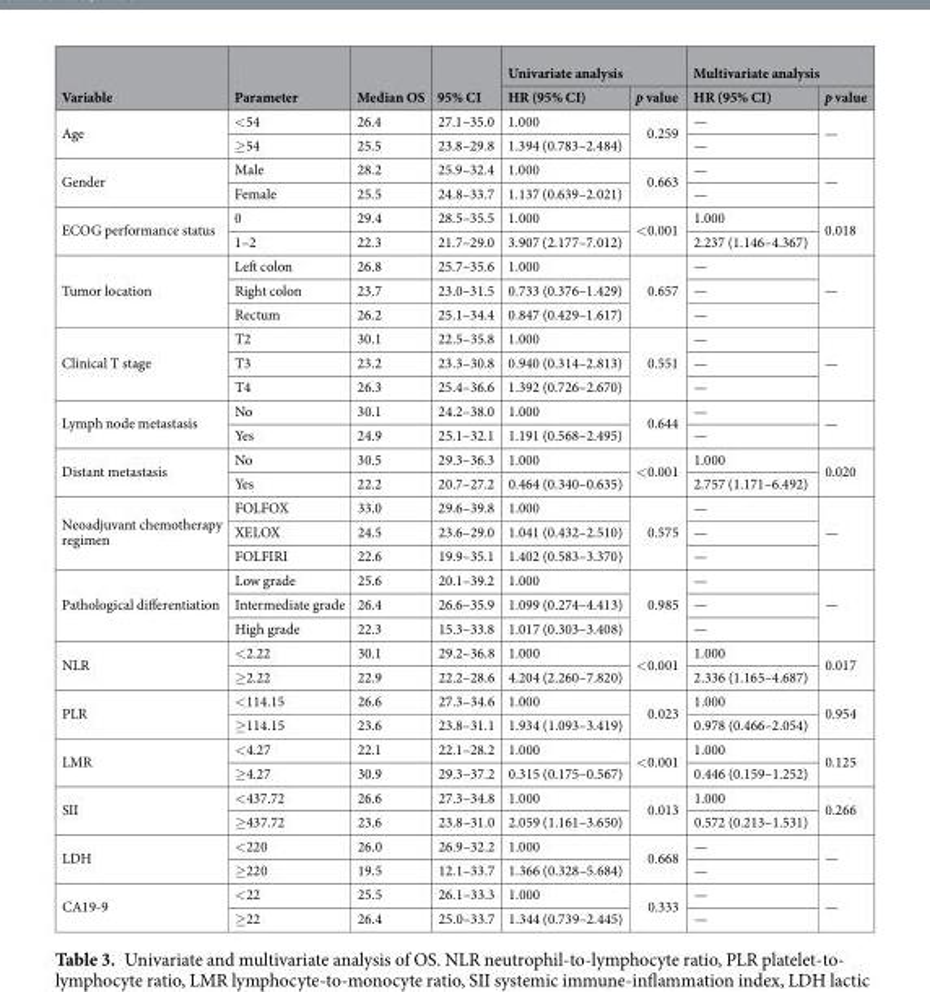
<table><thead><tr><td rowspan="2">Variable</td><td rowspan="2">Parameter</td><td rowspan="2">Median OS</td><td rowspan="2">95% CI</td><td colspan="2">Univariate analysis</td><td colspan="2">Multivariate analysis</td></tr><tr><td>HR (95% CI)</td><td>p value</td><td>HR (95% CI)</td><td>p value</td></tr></thead><tbody><tr><td rowspan="2">Age</td><td>&lt;54</td><td>26.4</td><td>27.1–35.0</td><td>1.000</td><td rowspan="2">0.259</td><td>—</td><td rowspan="2">—</td></tr><tr><td>≥54</td><td>25.5</td><td>23.8–29.8</td><td>1.394 (0.783–2.484)</td><td>—</td></tr><tr><td rowspan="2">Gender</td><td>Male</td><td>28.2</td><td>25.9–32.4</td><td>1.000</td><td rowspan="2">0.663</td><td>—</td><td rowspan="2">—</td></tr><tr><td>Female</td><td>25.5</td><td>24.8–33.7</td><td>1.137 (0.639–2.021)</td><td>—</td></tr><tr><td rowspan="2">ECOG performance status</td><td>0</td><td>29.4</td><td>28.5–35.5</td><td>1.000</td><td rowspan="2">&lt;0.001</td><td>1.000</td><td rowspan="2">0.018</td></tr><tr><td>1–2</td><td>22.3</td><td>21.7–29.0</td><td>3.907 (2.177–7.012)</td><td>2.237 (1.146–4.367)</td></tr><tr><td rowspan="3">Tumor location</td><td>Left colon</td><td>26.8</td><td>25.7–35.6</td><td>1.000</td><td rowspan="3">0.657</td><td>—</td><td rowspan="3">—</td></tr><tr><td>Right colon</td><td>23.7</td><td>23.0–31.5</td><td>0.733 (0.376–1.429)</td><td>—</td></tr><tr><td>Rectum</td><td>26.2</td><td>25.1–34.4</td><td>0.847 (0.429–1.617)</td><td>—</td></tr><tr><td rowspan="3">Clinical T stage</td><td>T2</td><td>30.1</td><td>22.5–35.8</td><td>1.000</td><td rowspan="3">0.551</td><td>—</td><td rowspan="3">—</td></tr><tr><td>T3</td><td>23.2</td><td>23.3–30.8</td><td>0.940 (0.314–2.813)</td><td>—</td></tr><tr><td>T4</td><td>26.3</td><td>25.4–36.6</td><td>1.392 (0.726–2.670)</td><td>—</td></tr><tr><td rowspan="2">Lymph node metastasis</td><td>No</td><td>30.1</td><td>24.2–38.0</td><td>1.000</td><td rowspan="2">0.644</td><td>—</td><td rowspan="2">—</td></tr><tr><td>Yes</td><td>24.9</td><td>25.1–32.1</td><td>1.191 (0.568–2.495)</td><td>—</td></tr><tr><td rowspan="2">Distant metastasis</td><td>No</td><td>30.5</td><td>29.3–36.3</td><td>1.000</td><td rowspan="2">&lt;0.001</td><td>1.000</td><td rowspan="2">0.020</td></tr><tr><td>Yes</td><td>22.2</td><td>20.7–27.2</td><td>0.464 (0.340–0.635)</td><td>2.757 (1.171–6.492)</td></tr><tr><td rowspan="3">Neoadjuvant chemotherapy regimen</td><td>FOLFOX</td><td>33.0</td><td>29.6–39.8</td><td>1.000</td><td rowspan="3">0.575</td><td>—</td><td rowspan="3">—</td></tr><tr><td>XELOX</td><td>24.5</td><td>23.6–29.0</td><td>1.041 (0.432–2.510)</td><td>—</td></tr><tr><td>FOLFIRI</td><td>22.6</td><td>19.9–35.1</td><td>1.402 (0.583–3.370)</td><td>—</td></tr><tr><td rowspan="3">Pathological differentiation</td><td>Low grade</td><td>25.6</td><td>20.1–39.2</td><td>1.000</td><td rowspan="3">0.985</td><td>—</td><td rowspan="3">—</td></tr><tr><td>Intermediate grade</td><td>26.4</td><td>26.6–35.9</td><td>1.099 (0.274–4.413)</td><td>—</td></tr><tr><td>High grade</td><td>22.3</td><td>15.3–33.8</td><td>1.017 (0.303–3.408)</td><td>—</td></tr><tr><td rowspan="2">NLR</td><td>&lt;2.22</td><td>30.1</td><td>29.2–36.8</td><td>1.000</td><td rowspan="2">&lt;0.001</td><td>1.000</td><td rowspan="2">0.017</td></tr><tr><td>≥2.22</td><td>22.9</td><td>22.2–28.6</td><td>4.204 (2.260–7.820)</td><td>2.336 (1.165–4.687)</td></tr><tr><td rowspan="2">PLR</td><td>&lt;114.15</td><td>26.6</td><td>27.3–34.6</td><td>1.000</td><td rowspan="2">0.023</td><td>1.000</td><td rowspan="2">0.954</td></tr><tr><td>≥114.15</td><td>23.6</td><td>23.8–31.1</td><td>1.934 (1.093–3.419)</td><td>0.978 (0.466–2.054)</td></tr><tr><td rowspan="2">LMR</td><td>&lt;4.27</td><td>22.1</td><td>22.1–28.2</td><td>1.000</td><td rowspan="2">&lt;0.001</td><td>1.000</td><td rowspan="2">0.125</td></tr><tr><td>≥4.27</td><td>30.9</td><td>29.3–37.2</td><td>0.315 (0.175–0.567)</td><td>0.446 (0.159–1.252)</td></tr><tr><td rowspan="2">SII</td><td>&lt;437.72</td><td>26.6</td><td>27.3–34.8</td><td>1.000</td><td rowspan="2">0.013</td><td>1.000</td><td rowspan="2">0.266</td></tr><tr><td>≥437.72</td><td>23.6</td><td>23.8–31.0</td><td>2.059 (1.161–3.650)</td><td>0.572 (0.213–1.531)</td></tr><tr><td rowspan="2">LDH</td><td>&lt;220</td><td>26.0</td><td>26.9–32.2</td><td>1.000</td><td rowspan="2">0.668</td><td>—</td><td rowspan="2">—</td></tr><tr><td>≥220</td><td>19.5</td><td>12.1–33.7</td><td>1.366 (0.328–5.684)</td><td>—</td></tr><tr><td rowspan="2">CA19-9</td><td>&lt;22</td><td>25.5</td><td>26.1–33.3</td><td>1.000</td><td rowspan="2">0.333</td><td>—</td><td rowspan="2">—</td></tr><tr><td>≥22</td><td>26.4</td><td>25.0–33.7</td><td>1.344 (0.739–2.445)</td><td>—</td></tr></tbody></table>